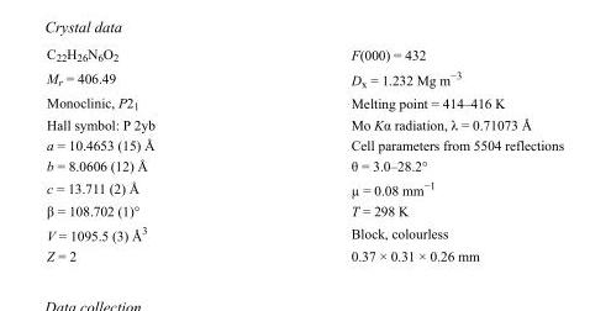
<table><tbody><tr><td>C<sub>22</sub>H<sub>26</sub>N<sub>6</sub>O<sub>2</sub></td><td>F(000) = 432</td></tr><tr><td>M<sub>r</sub> = 406.49</td><td>D<sub>x</sub> = 1.232 Mg m<sup>−3</sup></td></tr><tr><td>Monoclinic, P2<sub>1</sub></td><td>Melting point = 414–416 K</td></tr><tr><td>Hall symbol: P 2yb</td><td>Mo Kα radiation, λ = 0.71073 Å</td></tr><tr><td>a = 10.4653 (15) Å</td><td>Cell parameters from 5504 reflections</td></tr><tr><td>b = 8.0606 (12) Å</td><td>θ = 3.0–28.2°</td></tr><tr><td>c = 13.711 (2) Å</td><td>µ = 0.08 mm<sup>−1</sup></td></tr><tr><td>β = 108.702 (1)°</td><td>T = 298 K</td></tr><tr><td>V = 1095.5 (3) Å<sup>3</sup></td><td>Block, colourless</td></tr><tr><td>Z = 2</td><td>0.37 × 0.31 × 0.26 mm</td></tr></tbody></table>